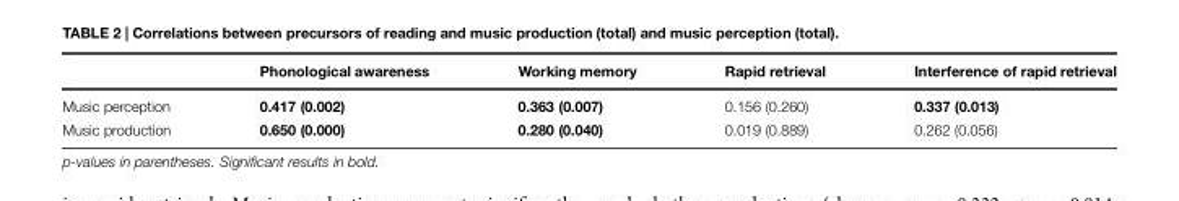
<table><thead><tr><td></td><td>Phonological awareness</td><td>Working memory</td><td>Rapid retrieval</td><td>Interference of rapid retrieval</td></tr></thead><tbody><tr><td>Music perception</td><td>0.417 (0.002)</td><td>0.363 (0.007)</td><td>0.156 (0.260)</td><td>0.337 (0.013)</td></tr><tr><td>Music production</td><td>0.650 (0.000)</td><td>0.280 (0.040)</td><td>0.019 (0.889)</td><td>0.262 (0.056)</td></tr></tbody></table>